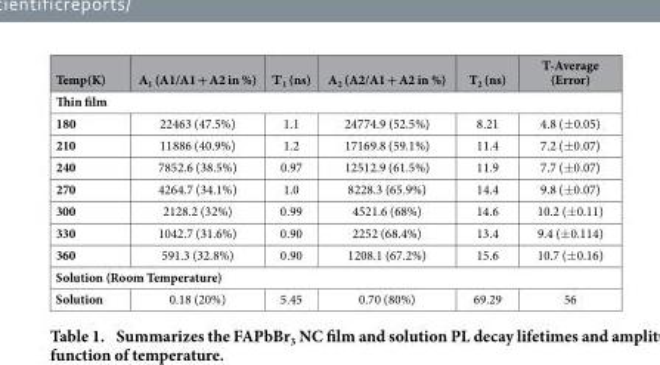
<table><thead><tr><td>Temp(K)</td><td>A<sub>1</sub> (A1/A1 + A2 in %)</td><td>Τ<sub>1</sub> (ns)</td><td>A<sub>2</sub> (A2/A1 + A2 in %)</td><td>T<sub>2</sub> (ns)</td><td>T-Average (Error)</td></tr></thead><tbody><tr><td colspan="6">Thin film</td></tr><tr><td>180</td><td>22463 (47.5%)</td><td>1.1</td><td>24774.9 (52.5%)</td><td>8.21</td><td>4.8 (± 0.05)</td></tr><tr><td>210</td><td>11886 (40.9%)</td><td>1.2</td><td>17169.8 (59.1%)</td><td>11.4</td><td>7.2 (± 0.07)</td></tr><tr><td>240</td><td>7852.6 (38.5%)</td><td>0.97</td><td>12512.9 (61.5%)</td><td>11.9</td><td>7.7 (± 0.07)</td></tr><tr><td>270</td><td>4264.7 (34.1%)</td><td>1.0</td><td>8228.3 (65.9%)</td><td>14.4</td><td>9.8 (± 0.07)</td></tr><tr><td>300</td><td>2128.2 (32%)</td><td>0.99</td><td>4521.6 (68%)</td><td>14.6</td><td>10.2 (± 0.11)</td></tr><tr><td>330</td><td>1042.7 (31.6%)</td><td>0.90</td><td>2252 (68.4%)</td><td>13.4</td><td>9.4 (± 0.114)</td></tr><tr><td>360</td><td>591.3 (32.8%)</td><td>0.90</td><td>1208.1 (67.2%)</td><td>15.6</td><td>10.7 (± 0.16)</td></tr><tr><td colspan="6">Solution (Room Temperature)</td></tr><tr><td>Solution</td><td>0.18 (20%)</td><td>5.45</td><td>0.70 (80%)</td><td>69.29</td><td>56</td></tr></tbody></table>